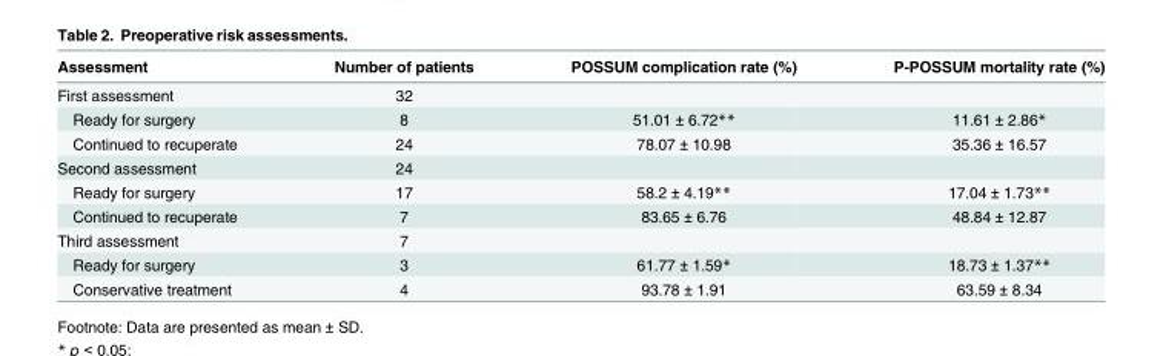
<table><thead><tr><td>Assessment</td><td>Number of patients</td><td>POSSUM complication rate (%)</td><td>P-POSSUM mortality rate (%)</td></tr></thead><tbody><tr><td>First assessment</td><td>32</td><td></td><td></td></tr><tr><td>Ready for surgery</td><td>8</td><td>51.01 ± 6.72**</td><td>11.61 ± 2.86*</td></tr><tr><td>Continued to recuperate</td><td>24</td><td>78.07 ± 10.98</td><td>35.36 ± 16.57</td></tr><tr><td>Second assessment</td><td>24</td><td></td><td></td></tr><tr><td>Ready for surgery</td><td>17</td><td>58.2 ± 4.19**</td><td>17.04 ± 1.73**</td></tr><tr><td>Continued to recuperate</td><td>7</td><td>83.65 ± 6.76</td><td>48.84 ± 12.87</td></tr><tr><td>Third assessment</td><td>7</td><td></td><td></td></tr><tr><td>Ready for surgery</td><td>3</td><td>61.77 ± 1.59*</td><td>18.73 ± 1.37**</td></tr><tr><td>Conservative treatment</td><td>4</td><td>93.78 ± 1.91</td><td>63.59 ± 8.34</td></tr></tbody></table>